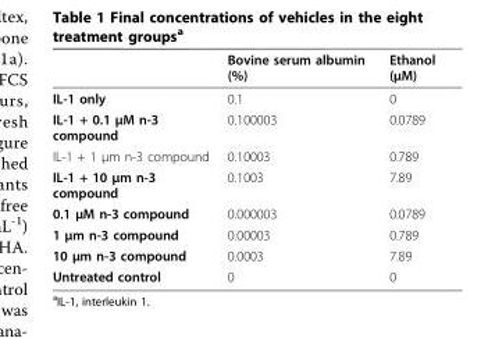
<table><thead><tr><td></td><td>Bovine serum albumin (%)</td><td>Ethanol (μM)</td></tr></thead><tbody><tr><td>IL-1 only</td><td>0.1</td><td>0</td></tr><tr><td>IL-1 + 0.1 μM n-3 compound</td><td>0.100003</td><td>0.0789</td></tr><tr><td>IL-1 + 1 μm n-3 compound</td><td>0.10003</td><td>0.789</td></tr><tr><td>IL-1 + 10 μm n-3 compound</td><td>0.1003</td><td>7.89</td></tr><tr><td>0.1 μM n-3 compound</td><td>0.000003</td><td>0.0789</td></tr><tr><td>1 μm n-3 compound</td><td>0.00003</td><td>0.789</td></tr><tr><td>10 μm n-3 compound</td><td>0.0003</td><td>7.89</td></tr><tr><td>Untreated control</td><td>0</td><td>0</td></tr></tbody></table>